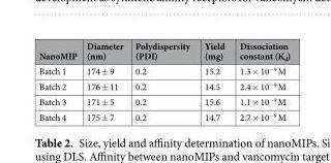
<table><thead><tr><td>NanoMIP</td><td>Diameter (nm)</td><td>Polydispersity (PDI)</td><td>Yield (mg)</td><td>Dissociation constant (K<sub>d</sub>)</td></tr></thead><tbody><tr><td>Batch 1</td><td>174 ± 9</td><td>0.2</td><td>15.2</td><td>1.3 × 10<sup>−9</sup> M</td></tr><tr><td>Batch 2</td><td>176 ± 11</td><td>0.2</td><td>14.5</td><td>2.4 × 10<sup>−9</sup> M</td></tr><tr><td>Batch 3</td><td>171 ± 5</td><td>0.2</td><td>15.6</td><td>1.1 × 10<sup>−9</sup> M</td></tr><tr><td>Batch 4</td><td>175 ± 7</td><td>0.2</td><td>14.7</td><td>2.7 × 10<sup>−9</sup> M</td></tr></tbody></table>